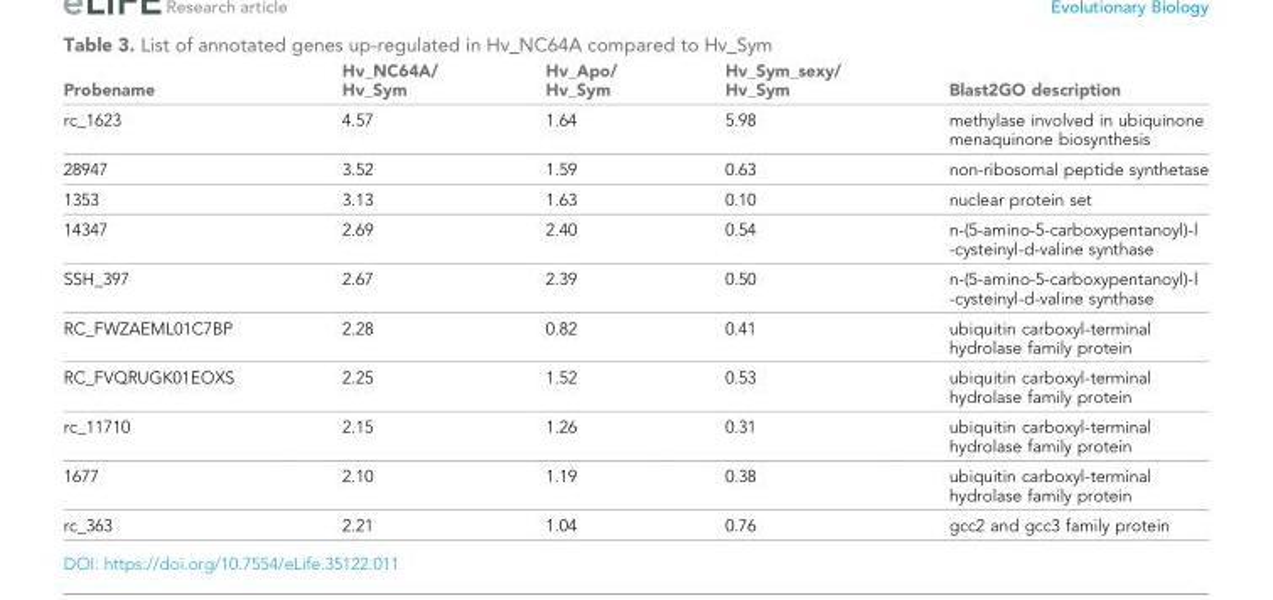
<table><thead><tr><td>Probename</td><td>Hv_NC64A/ Hv_Sym</td><td>Hv_Apo/ Hv_Sym</td><td>Hv_Sym_sexy/ Hv_Sym</td><td>Blast2GO description</td></tr></thead><tbody><tr><td>rc_1623</td><td>4.57</td><td>1.64</td><td>5.98</td><td>methylase involved in ubiquinone menaquinone biosynthesis</td></tr><tr><td>28947</td><td>3.52</td><td>1.59</td><td>0.63</td><td>non-ribosomal peptide synthetase</td></tr><tr><td>1353</td><td>3.13</td><td>1.63</td><td>0.10</td><td>nuclear protein set</td></tr><tr><td>14347</td><td>2.69</td><td>2.40</td><td>0.54</td><td>n-(5-amino-5-carboxypentanoyl)-l -cysteinyl-d-valine synthase</td></tr><tr><td>SSH_397</td><td>2.67</td><td>2.39</td><td>0.50</td><td>n-(5-amino-5-carboxypentanoyl)-l -cysteinyl-d-valine synthase</td></tr><tr><td>RC_FWZAEML01C7BP</td><td>2.28</td><td>0.82</td><td>0.41</td><td>ubiquitin carboxyl-terminal hydrolase family protein</td></tr><tr><td>RC_FVQRUGK01EOXS</td><td>2.25</td><td>1.52</td><td>0.53</td><td>ubiquitin carboxyl-terminal hydrolase family protein</td></tr><tr><td>rc_11710</td><td>2.15</td><td>1.26</td><td>0.31</td><td>ubiquitin carboxyl-terminal hydrolase family protein</td></tr><tr><td>1677</td><td>2.10</td><td>1.19</td><td>0.38</td><td>ubiquitin carboxyl-terminal hydrolase family protein</td></tr><tr><td>rc_363</td><td>2.21</td><td>1.04</td><td>0.76</td><td>gcc2 and gcc3 family protein</td></tr></tbody></table>